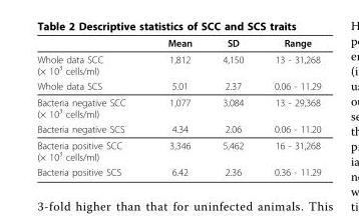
<table><thead><tr><td></td><td>Mean</td><td>SD</td><td>Range</td></tr></thead><tbody><tr><td>Whole data SCC (× 10<sup>3</sup> cells/ml)</td><td>1,812</td><td>4,150</td><td>13 - 31,268</td></tr><tr><td>Whole data SCS</td><td>5.01</td><td>2.37</td><td>0.06 - 11.29</td></tr><tr><td>Bacteria negative SCC (× 10<sup>3</sup> cells/ml)</td><td>1,077</td><td>3,084</td><td>13 - 29,368</td></tr><tr><td>Bacteria negative SCS</td><td>4.34</td><td>2.06</td><td>0.06 - 11.20</td></tr><tr><td>Bacteria positive SCC (× 10<sup>3</sup> cells/ml)</td><td>3,346</td><td>5,462</td><td>16 - 31,268</td></tr><tr><td>Bacteria positive SCS</td><td>6.42</td><td>2.36</td><td>0.36 - 11.29</td></tr></tbody></table>